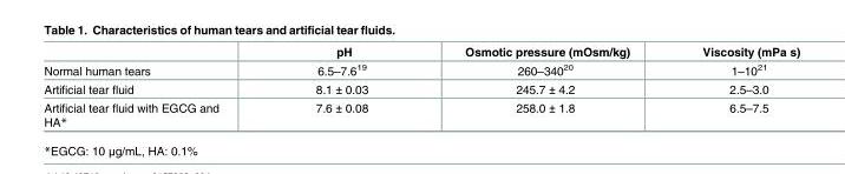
<table><thead><tr><td></td><td>pH</td><td>Osmotic pressure (mOsm/kg)</td><td>Viscosity (mPa s)</td></tr></thead><tbody><tr><td>Normal human tears</td><td>6.5–7.6<sup>19</sup></td><td>260–340<sup>20</sup></td><td>1–10<sup>21</sup></td></tr><tr><td>Artificial tear fluid</td><td>8.1 ± 0.03</td><td>245.7 ± 4.2</td><td>2.5–3.0</td></tr><tr><td>Artificial tear fluid with EGCG and HA*</td><td>7.6 ± 0.08</td><td>258.0 ± 1.8</td><td>6.5–7.5</td></tr></tbody></table>